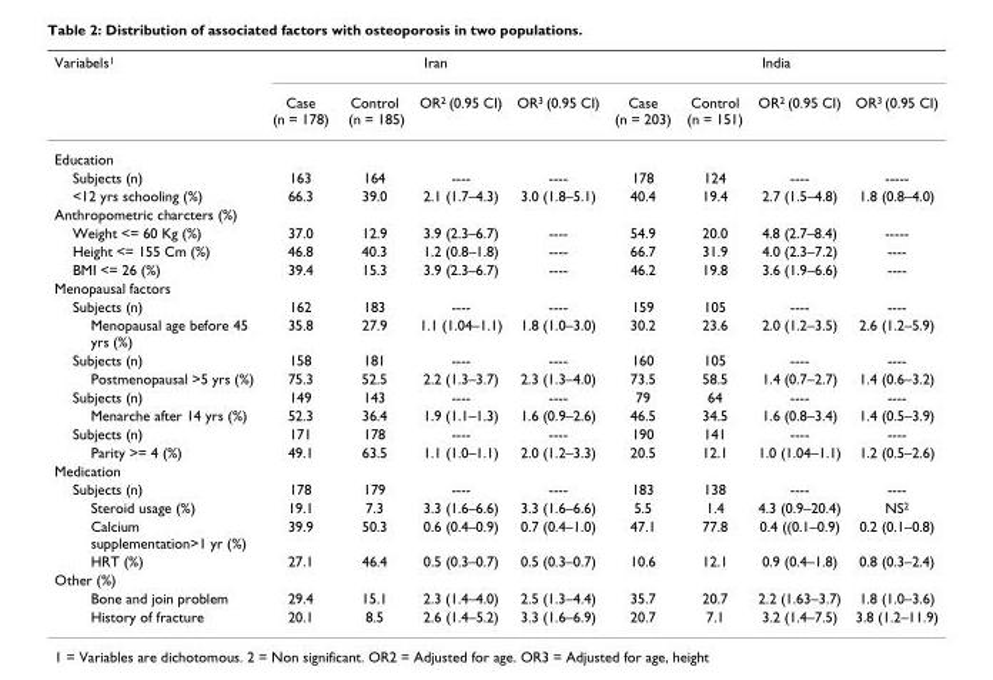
<table><thead><tr><td rowspan="2">Variabels<sup>1</sup></td><td colspan="4">Iran</td><td colspan="4">India</td></tr><tr><td>Case (n = 178)</td><td>Control (n = 185)</td><td>OR<sup>2</sup> (0.95 CI)</td><td>OR<sup>3</sup> (0.95 CI)</td><td>Case (n = 203)</td><td>Control (n = 151)</td><td>OR<sup>2</sup> (0.95 CI)</td><td>OR<sup>3</sup> (0.95 CI)</td></tr></thead><tbody><tr><td colspan="9">Education</td></tr><tr><td>Subjects (n)</td><td>163</td><td>164</td><td>----</td><td>----</td><td>178</td><td>124</td><td>----</td><td>-----</td></tr><tr><td>&lt;12 yrs schooling (%)</td><td>66.3</td><td>39.0</td><td>2.1 (1.7–4.3)</td><td>3.0 (1.8–5.1)</td><td>40.4</td><td>19.4</td><td>2.7 (1.5–4.8)</td><td>1.8 (0.8–4.0)</td></tr><tr><td colspan="9">Anthropometric charcters (%)</td></tr><tr><td>Weight &lt;= 60 Kg (%)</td><td>37.0</td><td>12.9</td><td>3.9 (2.3–6.7)</td><td>----</td><td>54.9</td><td>20.0</td><td>4.8 (2.7–8.4)</td><td>-----</td></tr><tr><td>Height &lt;= 155 Cm (%)</td><td>46.8</td><td>40.3</td><td>1.2 (0.8–1.8)</td><td>----</td><td>66.7</td><td>31.9</td><td>4.0 (2.3–7.2)</td><td>----</td></tr><tr><td>BMI &lt;= 26 (%)</td><td>39.4</td><td>15.3</td><td>3.9 (2.3–6.7)</td><td>----</td><td>46.2</td><td>19.8</td><td>3.6 (1.9–6.6)</td><td>----</td></tr><tr><td colspan="9">Menopausal factors</td></tr><tr><td>Subjects (n)</td><td>162</td><td>183</td><td>----</td><td>----</td><td>159</td><td>105</td><td>----</td><td>----</td></tr><tr><td>Menopausal age before 45 yrs (%)</td><td>35.8</td><td>27.9</td><td>1.1 (1.04–1.1)</td><td>1.8 (1.0–3.0)</td><td>30.2</td><td>23.6</td><td>2.0 (1.2–3.5)</td><td>2.6 (1.2–5.9)</td></tr><tr><td>Subjects (n)</td><td>158</td><td>181</td><td>----</td><td>----</td><td>160</td><td>105</td><td>----</td><td>----</td></tr><tr><td>Postmenopausal &gt;5 yrs (%)</td><td>75.3</td><td>52.5</td><td>2.2 (1.3–3.7)</td><td>2.3 (1.3–4.0)</td><td>73.5</td><td>58.5</td><td>1.4 (0.7–2.7)</td><td>1.4 (0.6–3.2)</td></tr><tr><td>Subjects (n)</td><td>149</td><td>143</td><td>----</td><td>----</td><td>79</td><td>64</td><td>----</td><td>----</td></tr><tr><td>Menarche after 14 yrs (%)</td><td>52.3</td><td>36.4</td><td>1.9 (1.1–1.3)</td><td>1.6 (0.9–2.6)</td><td>46.5</td><td>34.5</td><td>1.6 (0.8–3.4)</td><td>1.4 (0.5–3.9)</td></tr><tr><td>Subjects (n)</td><td>171</td><td>178</td><td>----</td><td>----</td><td>190</td><td>141</td><td>----</td><td>----</td></tr><tr><td>Parity &gt;= 4 (%)</td><td>49.1</td><td>63.5</td><td>1.1 (1.0–1.1)</td><td>2.0 (1.2–3.3)</td><td>20.5</td><td>12.1</td><td>1.0 (1.04–1.1)</td><td>1.2 (0.5–2.6)</td></tr><tr><td colspan="9">Medication</td></tr><tr><td>Subjects (n)</td><td>178</td><td>179</td><td>----</td><td>----</td><td>183</td><td>138</td><td>----</td><td>----</td></tr><tr><td>Steroid usage (%)</td><td>19.1</td><td>7.3</td><td>3.3 (1.6–6.6)</td><td>3.3 (1.6–6.6)</td><td>5.5</td><td>1.4</td><td>4.3 (0.9–20.4)</td><td>NS<sup>2</sup></td></tr><tr><td>Calcium supplementation&gt;1 yr (%)</td><td>39.9</td><td>50.3</td><td>0.6 (0.4–0.9)</td><td>0.7 (0.4–1.0)</td><td>47.1</td><td>77.8</td><td>0.4 ((0.1–0.9)</td><td>0.2 (0.1–0.8)</td></tr><tr><td>HRT (%)</td><td>27.1</td><td>46.4</td><td>0.5 (0.3–0.7)</td><td>0.5 (0.3–0.7)</td><td>10.6</td><td>12.1</td><td>0.9 (0.4–1.8)</td><td>0.8 (0.3–2.4)</td></tr><tr><td colspan="9">Other (%)</td></tr><tr><td>Bone and join problem</td><td>29.4</td><td>15.1</td><td>2.3 (1.4–4.0)</td><td>2.5 (1.3–4.4)</td><td>35.7</td><td>20.7</td><td>2.2 (1.63–3.7)</td><td>1.8 (1.0–3.6)</td></tr><tr><td>History of fracture</td><td>20.1</td><td>8.5</td><td>2.6 (1.4–5.2)</td><td>3.3 (1.6–6.9)</td><td>20.7</td><td>7.1</td><td>3.2 (1.4–7.5)</td><td>3.8 (1.2–11.9)</td></tr></tbody></table>